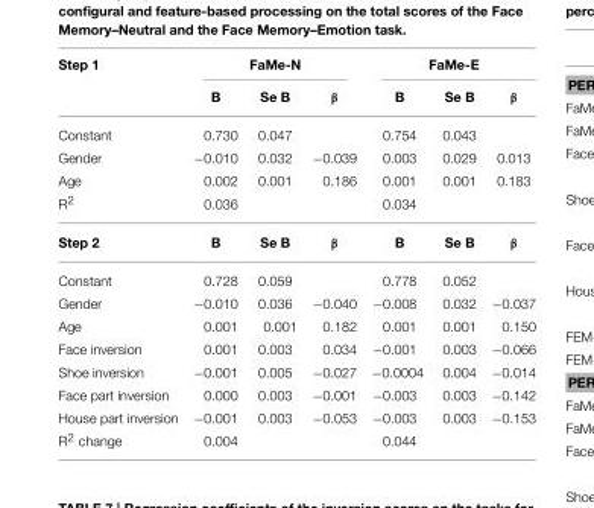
<table><thead><tr><td rowspan="2">Step 1</td><td colspan="3">FaMe-N</td><td colspan="3">FaMe-E</td></tr><tr><td>B</td><td>Se B</td><td>β</td><td>B</td><td>Se B</td><td>β</td></tr></thead><tbody><tr><td>Constant</td><td>0.730</td><td>0.047</td><td></td><td>0.754</td><td>0.043</td><td></td></tr><tr><td>Gender</td><td>−0.010</td><td>0.032</td><td>−0.039</td><td>0.003</td><td>0.029</td><td>0.013</td></tr><tr><td>Age</td><td>0.002</td><td>0.001</td><td>0.186</td><td>0.001</td><td>0.001</td><td>0.183</td></tr><tr><td>R<sup>2</sup></td><td>0.036</td><td></td><td></td><td>0.034</td><td></td><td></td></tr><tr><td>Step 2</td><td>B</td><td>Se B</td><td>β</td><td>B</td><td>Se B</td><td>β</td></tr><tr><td>Constant</td><td>0.728</td><td>0.059</td><td></td><td>0.778</td><td>0.052</td><td></td></tr><tr><td>Gender</td><td>−0.010</td><td>0.036</td><td>−0.040</td><td>−0.008</td><td>0.032</td><td>−0.037</td></tr><tr><td>Age</td><td>0.001</td><td>0.001</td><td>0.182</td><td>0.001</td><td>0.001</td><td>0.150</td></tr><tr><td>Face inversion</td><td>0.001</td><td>0.003</td><td>0.034</td><td>−0.001</td><td>0.003</td><td>−0.066</td></tr><tr><td>Shoe inversion</td><td>−0.001</td><td>0.005</td><td>−0.027</td><td>−0.0004</td><td>0.004</td><td>−0.014</td></tr><tr><td>Face part inversion</td><td>0.000</td><td>0.003</td><td>−0.001</td><td>−0.003</td><td>0.003</td><td>−0.142</td></tr><tr><td>House part inversion</td><td>−0.001</td><td>0.003</td><td>−0.053</td><td>−0.003</td><td>0.003</td><td>−0.153</td></tr><tr><td>R<sup>2</sup> change</td><td>0.004</td><td></td><td></td><td>0.044</td><td></td><td></td></tr></tbody></table>